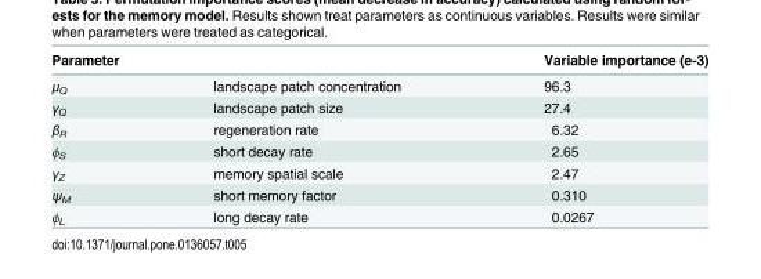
<table><thead><tr><td colspan="2">Parameter</td><td rowspan="2">Variable importance (e-3) 96.3</td></tr><tr><td>μ<sub>Q</sub></td><td>landscape patch concentration</td></tr></thead><tbody><tr><td>γ<sub>Q</sub></td><td>landscape patch size</td><td>27.4</td></tr><tr><td>β<sub>R</sub></td><td>regeneration rate</td><td>6.32</td></tr><tr><td>ϕ<sub>S</sub></td><td>short decay rate</td><td>2.65</td></tr><tr><td>γ<sub>Z</sub></td><td>memory spatial scale</td><td>2.47</td></tr><tr><td>ψ<sub>M</sub></td><td>short memory factor</td><td>0.310</td></tr><tr><td>ϕ<sub>L</sub></td><td>long decay rate</td><td>0.0267</td></tr></tbody></table>